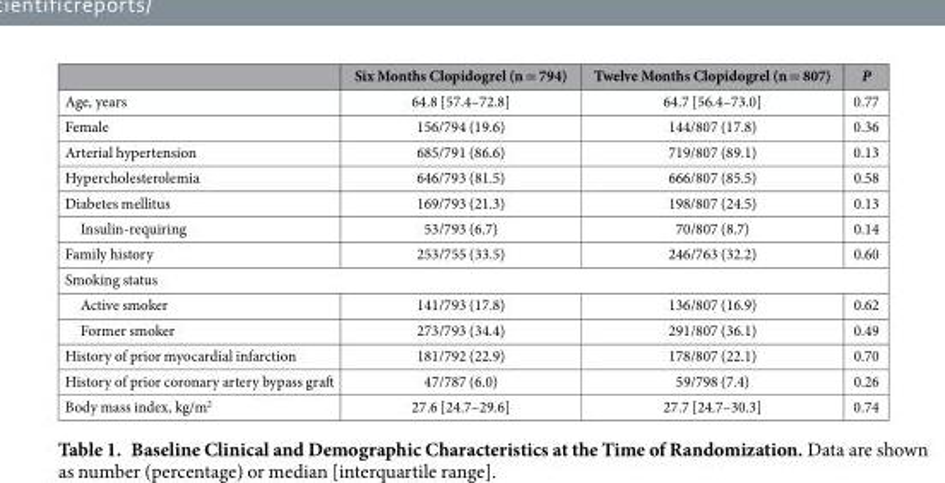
<table><thead><tr><td></td><td>Six Months Clopidogrel (n = 794)</td><td>Twelve Months Clopidogrel (n = 807)</td><td>P</td></tr></thead><tbody><tr><td>Age, years</td><td>64.8 [57.4–72.8]</td><td>64.7 [56.4–73.0]</td><td>0.77</td></tr><tr><td>Female</td><td>156/794 (19.6)</td><td>144/807 (17.8)</td><td>0.36</td></tr><tr><td>Arterial hypertension</td><td>685/791 (86.6)</td><td>719/807 (89.1)</td><td>0.13</td></tr><tr><td>Hypercholesterolemia</td><td>646/793 (81.5)</td><td>666/807 (85.5)</td><td>0.58</td></tr><tr><td>Diabetes mellitus</td><td>169/793 (21.3)</td><td>198/807 (24.5)</td><td>0.13</td></tr><tr><td>Insulin-requiring</td><td>53/793 (6.7)</td><td>70/807 (8.7)</td><td>0.14</td></tr><tr><td>Family history</td><td>253/755 (33.5)</td><td>246/763 (32.2)</td><td>0.60</td></tr><tr><td colspan="4">Smoking status</td></tr><tr><td>Active smoker</td><td>141/793 (17.8)</td><td>136/807 (16.9)</td><td>0.62</td></tr><tr><td>Former smoker</td><td>273/793 (34.4)</td><td>291/807 (36.1)</td><td>0.49</td></tr><tr><td>History of prior myocardial infarction</td><td>181/792 (22.9)</td><td>178/807 (22.1)</td><td>0.70</td></tr><tr><td>History of prior coronary artery bypass graft</td><td>47/787 (6.0)</td><td>59/798 (7.4)</td><td>0.26</td></tr><tr><td>Body mass index, kg/m<sup>2</sup></td><td>27.6 [24.7–29.6]</td><td>27.7 [24.7–30.3]</td><td>0.74</td></tr></tbody></table>